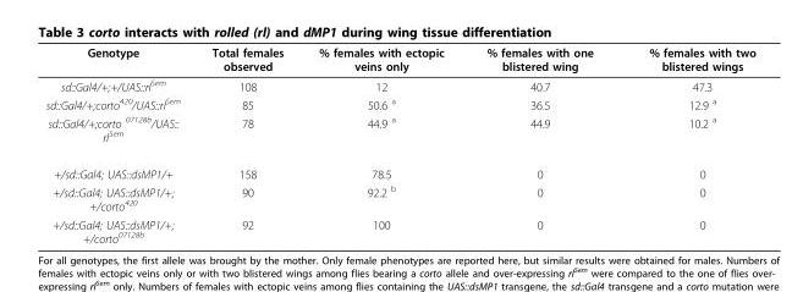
<table><thead><tr><td>Genotype</td><td>Total females observed</td><td>% females with ectopic veins only</td><td>% females with one blistered wing</td><td>% females with two blistered wings</td></tr></thead><tbody><tr><td>sd::Gal4/+;+/UAS::rl<sup>Sem</sup></td><td>108</td><td>12</td><td>40.7</td><td>47.3</td></tr><tr><td>sd::Gal4/+;corto<sup>420</sup>/UAS::rl<sup>Sem</sup></td><td>85</td><td>50.6 <sup>a</sup></td><td>36.5</td><td>12.9 <sup>a</sup></td></tr><tr><td>sd::Gal4/+;corto <sup>07128b</sup>/UAS:: rl<sup>Sem</sup></td><td>78</td><td>44.9 <sup>a</sup></td><td>44.9</td><td>10.2 <sup>a</sup></td></tr><tr><td>+/sd::Gal4; UAS::dsMP1/+</td><td>158</td><td>78.5</td><td>0</td><td>0</td></tr><tr><td>+/sd::Gal4; UAS::dsMP1/+; +/corto<sup>420</sup></td><td>90</td><td>92.2 <sup>b</sup></td><td>0</td><td>0</td></tr><tr><td>+/sd::Gal4; UAS::dsMP1/+; +/corto<sup>07128b</sup></td><td>92</td><td>100</td><td>0</td><td>0</td></tr></tbody></table>